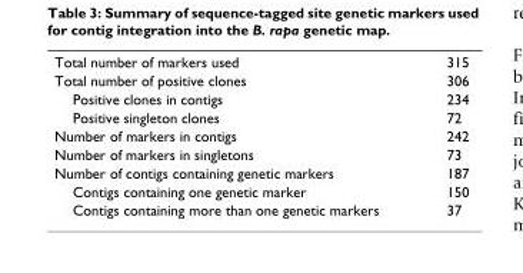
<table><tbody><tr><td>Total number of markers used</td><td>315</td></tr><tr><td>Total number of positive clones</td><td>306</td></tr><tr><td>Positive clones in contigs</td><td>234</td></tr><tr><td>Positive singleton clones</td><td>72</td></tr><tr><td>Number of markers in contigs</td><td>242</td></tr><tr><td>Number of markers in singletons</td><td>73</td></tr><tr><td>Number of contigs containing genetic markers</td><td>187</td></tr><tr><td>Contigs containing one genetic marker</td><td>150</td></tr><tr><td>Contigs containing more than one genetic markers</td><td>37</td></tr></tbody></table>